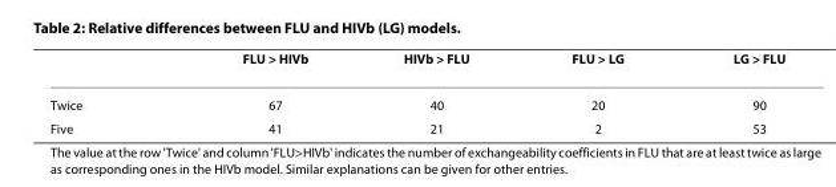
<table><thead><tr><td></td><td>FLU &gt; HIVb</td><td>HIVb &gt; FLU</td><td>FLU &gt; LG</td><td>LG &gt; FLU</td></tr></thead><tbody><tr><td>Twice</td><td>67</td><td>40</td><td>20</td><td>90</td></tr><tr><td>Five</td><td>41</td><td>21</td><td>2</td><td>53</td></tr></tbody></table>